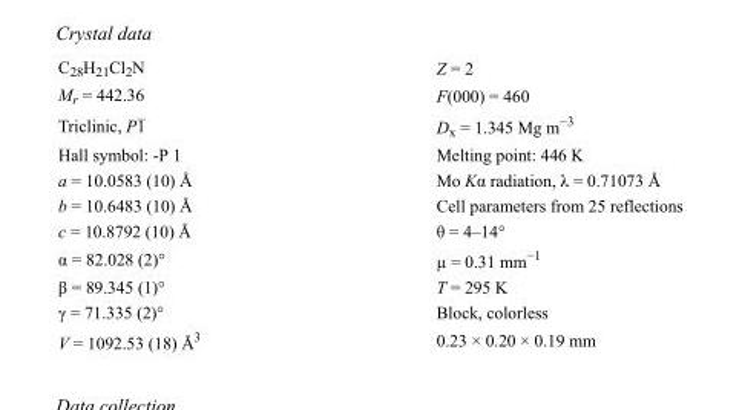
<table><tbody><tr><td>C<sub>28</sub>H<sub>21</sub>Cl<sub>2</sub>N</td><td>Z = 2</td></tr><tr><td>M<sub>r</sub> = 442.36</td><td>F(000) = 460</td></tr><tr><td>Triclinic, P1</td><td>D<sub>x</sub> = 1.345 Mg m<sup>−3</sup></td></tr><tr><td>Hall symbol: -P 1</td><td>Melting point: 446 K</td></tr><tr><td>a = 10.0583 (10) Å</td><td>Mo Kα radiation, λ = 0.71073 Å</td></tr><tr><td>b = 10.6483 (10) Å</td><td>Cell parameters from 25 reflections</td></tr><tr><td>c = 10.8792 (10) Å</td><td>θ = 4–14°</td></tr><tr><td>α = 82.028 (2)°</td><td>µ = 0.31 mm<sup>−1</sup></td></tr><tr><td>β = 89.345 (1)°</td><td>T = 295 K</td></tr><tr><td>γ = 71.335 (2)°</td><td>Block, colorless</td></tr><tr><td>V = 1092.53 (18) Å<sup>3</sup></td><td>0.23 × 0.20 × 0.19 mm</td></tr></tbody></table>